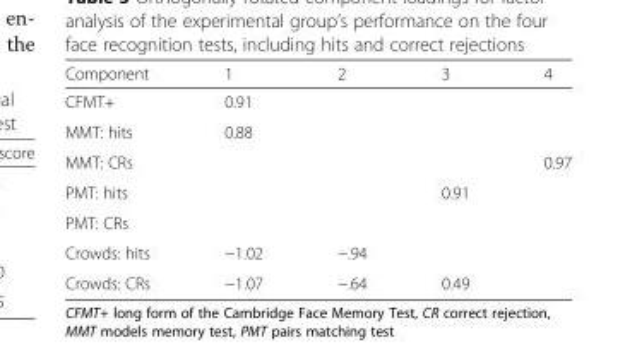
<table><thead><tr><td>Component</td><td>1</td><td>2</td><td>3</td><td>4</td></tr></thead><tbody><tr><td>CFMT+</td><td>0.91</td><td></td><td></td><td></td></tr><tr><td>MMT: hits</td><td>0.88</td><td></td><td></td><td></td></tr><tr><td>MMT: CRs</td><td></td><td></td><td></td><td>0.97</td></tr><tr><td>PMT: hits</td><td></td><td></td><td>0.91</td><td></td></tr><tr><td colspan="5">PMT: CRs</td></tr><tr><td>Crowds: hits</td><td>−1.02</td><td>−.94</td><td></td><td></td></tr><tr><td>Crowds: CRs</td><td>−1.07</td><td>−.64</td><td>0.49</td><td></td></tr></tbody></table>